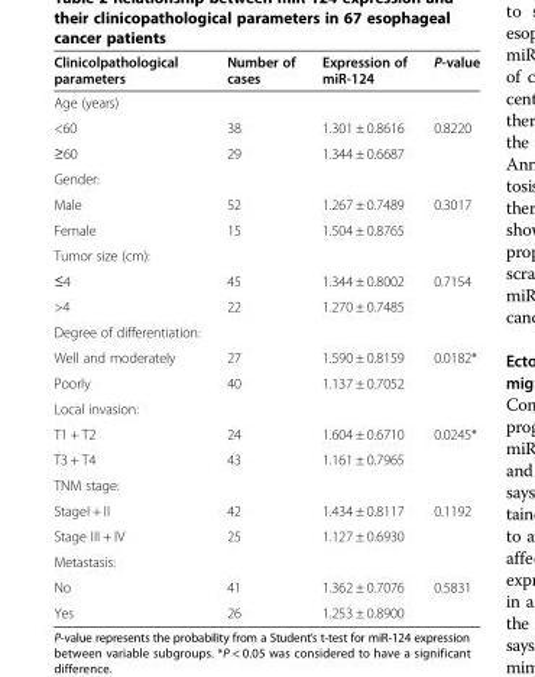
<table><thead><tr><td>Clinicolpathological parameters</td><td>Number of cases</td><td>Expression of miR-124</td><td>P-value</td></tr></thead><tbody><tr><td colspan="4">Age (years)</td></tr><tr><td>&lt;60</td><td>38</td><td>1.301 ± 0.8616</td><td>0.8220</td></tr><tr><td>≥60</td><td>29</td><td>1.344 ± 0.6687</td><td></td></tr><tr><td colspan="4">Gender:</td></tr><tr><td>Male</td><td>52</td><td>1.267 ± 0.7489</td><td>0.3017</td></tr><tr><td>Female</td><td>15</td><td>1.504 ± 0.8765</td><td></td></tr><tr><td colspan="4">Tumor size (cm):</td></tr><tr><td>≤4</td><td>45</td><td>1.344 ± 0.8002</td><td>0.7154</td></tr><tr><td>&gt;4</td><td>22</td><td>1.270 ± 0.7485</td><td></td></tr><tr><td colspan="4">Degree of differentiation:</td></tr><tr><td>Well and moderately</td><td>27</td><td>1.590 ± 0.8159</td><td>0.0182*</td></tr><tr><td>Poorly</td><td>40</td><td>1.137 ± 0.7052</td><td></td></tr><tr><td colspan="4">Local invasion:</td></tr><tr><td>T1 + T2</td><td>24</td><td>1.604 ± 0.6710</td><td>0.0245*</td></tr><tr><td>T3 + T4</td><td>43</td><td>1.161 ± 0.7965</td><td></td></tr><tr><td colspan="4">TNM stage:</td></tr><tr><td>StageI + II</td><td>42</td><td>1.434 ± 0.8117</td><td>0.1192</td></tr><tr><td>Stage III + IV</td><td>25</td><td>1.127 ± 0.6930</td><td></td></tr><tr><td colspan="4">Metastasis:</td></tr><tr><td>No</td><td>41</td><td>1.362 ± 0.7076</td><td>0.5831</td></tr><tr><td>Yes</td><td>26</td><td>1.253 ± 0.8900</td><td></td></tr></tbody></table>